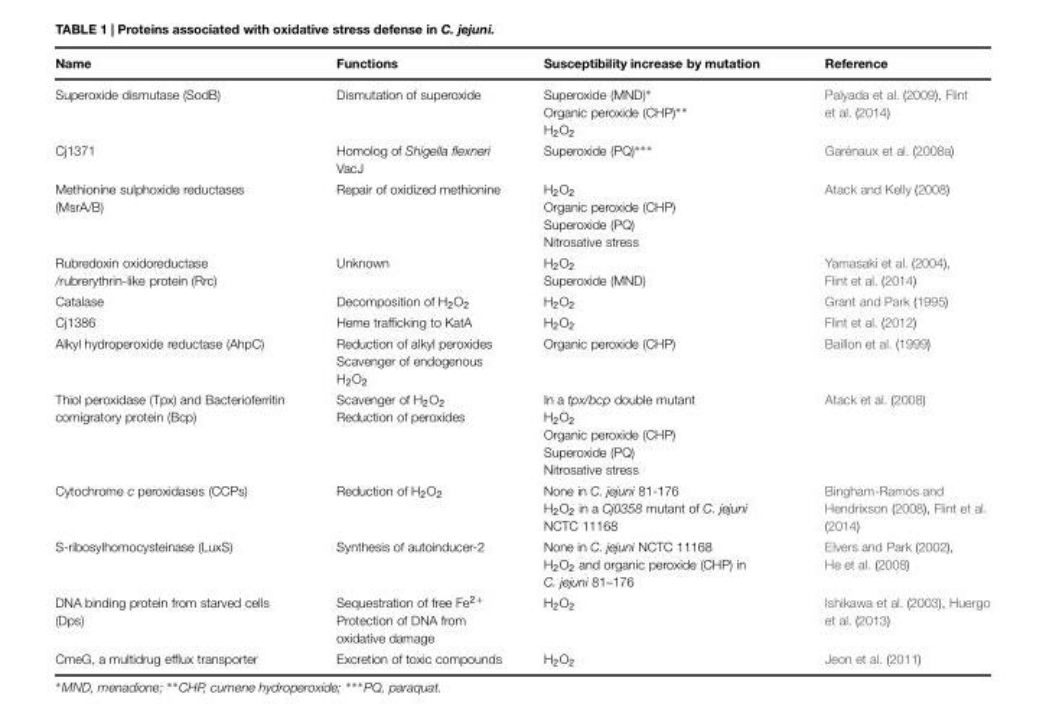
<table><thead><tr><td>Name</td><td>Functions</td><td>Susceptibility increase by mutation</td><td>Reference</td></tr></thead><tbody><tr><td>Superoxide dismutase (SodB)</td><td>Dismutation of superoxide</td><td>Superoxide (MND)∗ Organic peroxide (CHP)∗∗ H<sub>2</sub>O<sub>2</sub></td><td>Palyada et al. (2009), Flint et al. (2014)</td></tr><tr><td>Cj1371</td><td>Homolog of Shigella flexneri VacJ</td><td>Superoxide (PQ)∗∗∗</td><td>Garénaux et al. (2008a)</td></tr><tr><td>Methionine sulphoxide reductases (MsrA/B)</td><td>Repair of oxidized methionine</td><td>H<sub>2</sub>O<sub>2</sub> Organic peroxide (CHP) Superoxide (PQ) Nitrosative stress</td><td>Atack and Kelly (2008)</td></tr><tr><td>Rubredoxin oxidoreductase /rubrerythrin-like protein (Rrc)</td><td>Unknown</td><td>H<sub>2</sub>O<sub>2</sub> Superoxide (MND)</td><td>Yamasaki et al. (2004), Flint et al. (2014)</td></tr><tr><td>Catalase</td><td>Decomposition of H<sub>2</sub>O<sub>2</sub></td><td>H<sub>2</sub>O<sub>2</sub></td><td>Grant and Park (1995)</td></tr><tr><td>Cj1386</td><td>Heme trafficking to KatA</td><td>H<sub>2</sub>O<sub>2</sub></td><td>Flint et al. (2012)</td></tr><tr><td>Alkyl hydroperoxide reductase (AhpC)</td><td>Reduction of alkyl peroxides Scavenger of endogenous H<sub>2</sub>O<sub>2</sub></td><td>Organic peroxide (CHP)</td><td>Baillon et al. (1999)</td></tr><tr><td>Thiol peroxidase (Tpx) and Bacterioferritin comigratory protein (Bcp)</td><td>Scavenger of H<sub>2</sub>O<sub>2</sub> Reduction of peroxides</td><td>In a tpx/bcp double mutant H<sub>2</sub>O<sub>2</sub> Organic peroxide (CHP) Superoxide (PQ) Nitrosative stress</td><td>Atack et al. (2008)</td></tr><tr><td>Cytochrome c peroxidases (CCPs)</td><td>Reduction of H<sub>2</sub>O<sub>2</sub></td><td>None in C. jejuni 81-176 H<sub>2</sub>O<sub>2</sub> in a Cj0358 mutant of C. jejuni NCTC 11168</td><td>Bingham-Ramos and Hendrixson (2008), Flint et al. (2014)</td></tr><tr><td>S-ribosylhomocysteinase (LuxS)</td><td>Synthesis of autoinducer-2</td><td>None in C. jejuni NCTC 11168 H<sub>2</sub>O<sub>2</sub> and organic peroxide (CHP) in C. jejuni 81–176</td><td>Elvers and Park (2002), He et al. (2008)</td></tr><tr><td>DNA binding protein from starved cells (Dps)</td><td>Sequestration of free Fe<sup>2+</sup> Protection of DNA from oxidative damage</td><td>H<sub>2</sub>O<sub>2</sub></td><td>Ishikawa et al. (2003), Huergo et al. (2013)</td></tr><tr><td>CmeG, a multidrug efflux transporter</td><td>Excretion of toxic compounds</td><td>H<sub>2</sub>O<sub>2</sub></td><td>Jeon et al. (2011)</td></tr></tbody></table>